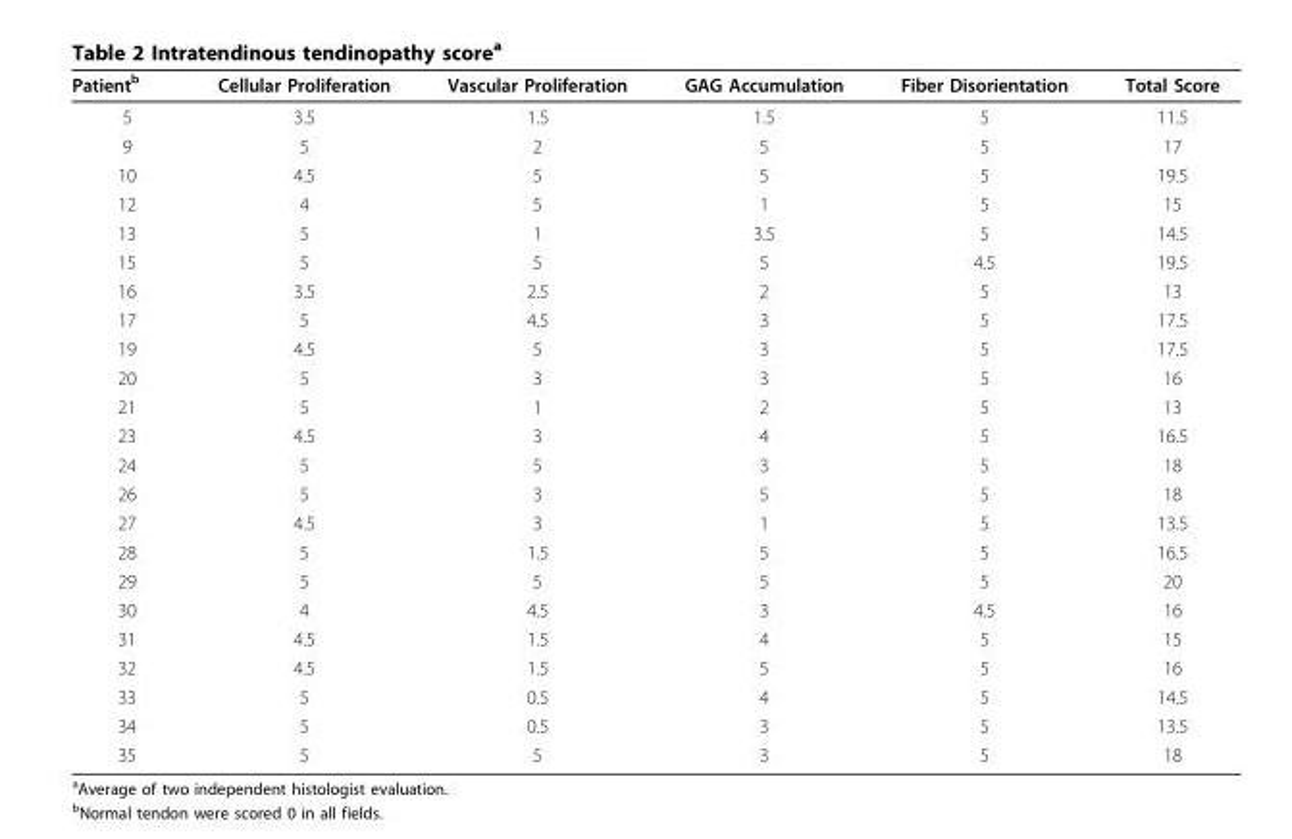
<table><thead><tr><td>Patient<sup>b</sup></td><td>Cellular Proliferation</td><td>Vascular Proliferation</td><td>GAG Accumulation</td><td>Fiber Disorientation</td><td>Total Score</td></tr></thead><tbody><tr><td>5</td><td>3.5</td><td>1.5</td><td>1.5</td><td>5</td><td>11.5</td></tr><tr><td>9</td><td>5</td><td>2</td><td>5</td><td>5</td><td>17</td></tr><tr><td>10</td><td>4.5</td><td>5</td><td>5</td><td>5</td><td>19.5</td></tr><tr><td>12</td><td>4</td><td>5</td><td>1</td><td>5</td><td>15</td></tr><tr><td>13</td><td>5</td><td>1</td><td>3.5</td><td>5</td><td>14.5</td></tr><tr><td>15</td><td>5</td><td>5</td><td>5</td><td>4.5</td><td>19.5</td></tr><tr><td>16</td><td>3.5</td><td>2.5</td><td>2</td><td>5</td><td>13</td></tr><tr><td>17</td><td>5</td><td>4.5</td><td>3</td><td>5</td><td>17.5</td></tr><tr><td>19</td><td>4.5</td><td>5</td><td>3</td><td>5</td><td>17.5</td></tr><tr><td>20</td><td>5</td><td>3</td><td>3</td><td>5</td><td>16</td></tr><tr><td>21</td><td>5</td><td>1</td><td>2</td><td>5</td><td>13</td></tr><tr><td>23</td><td>4.5</td><td>3</td><td>4</td><td>5</td><td>16.5</td></tr><tr><td>24</td><td>5</td><td>5</td><td>3</td><td>5</td><td>18</td></tr><tr><td>26</td><td>5</td><td>3</td><td>5</td><td>5</td><td>18</td></tr><tr><td>27</td><td>4.5</td><td>3</td><td>1</td><td>5</td><td>13.5</td></tr><tr><td>28</td><td>5</td><td>1.5</td><td>5</td><td>5</td><td>16.5</td></tr><tr><td>29</td><td>5</td><td>5</td><td>5</td><td>5</td><td>20</td></tr><tr><td>30</td><td>4</td><td>4.5</td><td>3</td><td>4.5</td><td>16</td></tr><tr><td>31</td><td>4.5</td><td>1.5</td><td>4</td><td>5</td><td>15</td></tr><tr><td>32</td><td>4.5</td><td>1.5</td><td>5</td><td>5</td><td>16</td></tr><tr><td>33</td><td>5</td><td>0.5</td><td>4</td><td>5</td><td>14.5</td></tr><tr><td>34</td><td>5</td><td>0.5</td><td>3</td><td>5</td><td>13.5</td></tr><tr><td>35</td><td>5</td><td>5</td><td>3</td><td>5</td><td>18</td></tr></tbody></table>